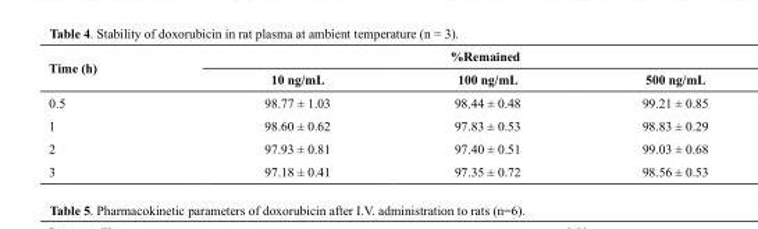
<table><thead><tr><td rowspan="2">Time (h)</td><td colspan="3">%Remained</td></tr><tr><td>10 ng/mL</td><td>100 ng/mL</td><td>500 ng/mL</td></tr></thead><tbody><tr><td>0.5</td><td>98.77 ± 1.03</td><td>98.44 ± 0.48</td><td>99.21 ± 0.85</td></tr><tr><td>1</td><td>98.60 ± 0.62</td><td>97.83 ± 0.53</td><td>98.83 ± 0.29</td></tr><tr><td>2</td><td>97.93 ± 0.81</td><td>97.40 ± 0.51</td><td>99.03 ± 0.68</td></tr><tr><td>3</td><td>97.18 ± 0.41</td><td>97.35 ± 0.72</td><td>98.56 ± 0.53</td></tr></tbody></table>